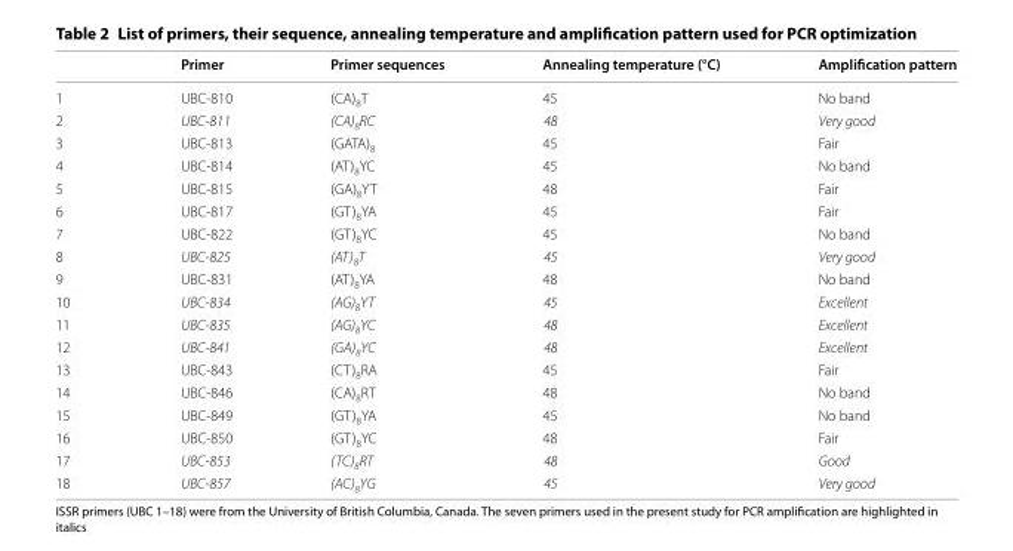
<table><thead><tr><td></td><td>Primer</td><td>Primer sequences</td><td>Annealing temperature (°C)</td><td>Amplification pattern</td></tr></thead><tbody><tr><td>1</td><td>UBC-810</td><td>(CA)<sub>8</sub>T</td><td>45</td><td>No band</td></tr><tr><td>2</td><td>UBC-811</td><td>(CA)<sub>8</sub>RC</td><td>48</td><td>Very good</td></tr><tr><td>3</td><td>UBC-813</td><td>(GATA)<sub>8</sub></td><td>45</td><td>Fair</td></tr><tr><td>4</td><td>UBC-814</td><td>(AT)<sub>8</sub>YC</td><td>45</td><td>No band</td></tr><tr><td>5</td><td>UBC-815</td><td>(GA)<sub>8</sub>YT</td><td>48</td><td>Fair</td></tr><tr><td>6</td><td>UBC-817</td><td>(GT)<sub>8</sub>YA</td><td>45</td><td>Fair</td></tr><tr><td>7</td><td>UBC-822</td><td>(GT)<sub>8</sub>YC</td><td>45</td><td>No band</td></tr><tr><td>8</td><td>UBC-825</td><td>(AT)<sub>8</sub>T</td><td>45</td><td>Very good</td></tr><tr><td>9</td><td>UBC-831</td><td>(AT)<sub>8</sub>YA</td><td>48</td><td>No band</td></tr><tr><td>10</td><td>UBC-834</td><td>(AG)<sub>8</sub>YT</td><td>45</td><td>Excellent</td></tr><tr><td>11</td><td>UBC-835</td><td>(AG)<sub>8</sub>YC</td><td>48</td><td>Excellent</td></tr><tr><td>12</td><td>UBC-841</td><td>(GA)<sub>8</sub>YC</td><td>48</td><td>Excellent</td></tr><tr><td>13</td><td>UBC-843</td><td>(CT)<sub>8</sub>RA</td><td>45</td><td>Fair</td></tr><tr><td>14</td><td>UBC-846</td><td>(CA)<sub>8</sub>RT</td><td>48</td><td>No band</td></tr><tr><td>15</td><td>UBC-849</td><td>(GT)<sub>8</sub>YA</td><td>45</td><td>No band</td></tr><tr><td>16</td><td>UBC-850</td><td>(GT)<sub>8</sub>YC</td><td>48</td><td>Fair</td></tr><tr><td>17</td><td>UBC-853</td><td>(TC)<sub>8</sub>RT</td><td>48</td><td>Good</td></tr><tr><td>18</td><td>UBC-857</td><td>(AC)<sub>8</sub>YG</td><td>45</td><td>Very good</td></tr></tbody></table>